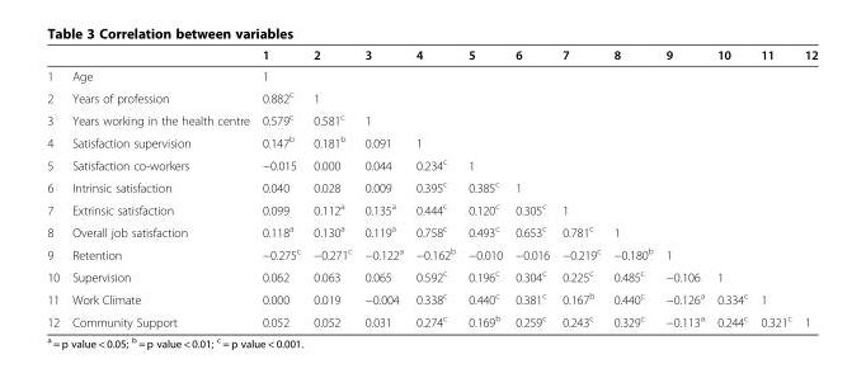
<table><thead><tr><td></td><td></td><td>1</td><td>2</td><td>3</td><td>4</td><td>5</td><td>6</td><td>7</td><td>8</td><td>9</td><td>10</td><td>11</td><td>12</td></tr></thead><tbody><tr><td>1</td><td>Age</td><td>1</td><td></td><td></td><td></td><td></td><td></td><td></td><td></td><td></td><td></td><td></td><td></td></tr><tr><td>2</td><td>Years of profession</td><td>0.882<sup>c</sup></td><td>1</td><td></td><td></td><td></td><td></td><td></td><td></td><td></td><td></td><td></td><td></td></tr><tr><td>3</td><td>Years working in the health centre</td><td>0.579<sup>c</sup></td><td>0.581<sup>c</sup></td><td>1</td><td></td><td></td><td></td><td></td><td></td><td></td><td></td><td></td><td></td></tr><tr><td>4</td><td>Satisfaction supervision</td><td>0.147<sup>b</sup></td><td>0.181<sup>b</sup></td><td>0.091</td><td>1</td><td></td><td></td><td></td><td></td><td></td><td></td><td></td><td></td></tr><tr><td>5</td><td>Satisfaction co-workers</td><td>−0.015</td><td>0.000</td><td>0.044</td><td>0.234<sup>c</sup></td><td>1</td><td></td><td></td><td></td><td></td><td></td><td></td><td></td></tr><tr><td>6</td><td>Intrinsic satisfaction</td><td>0.040</td><td>0.028</td><td>0.009</td><td>0.395<sup>c</sup></td><td>0.385<sup>c</sup></td><td>1</td><td></td><td></td><td></td><td></td><td></td><td></td></tr><tr><td>7</td><td>Extrinsic satisfaction</td><td>0.099</td><td>0.112<sup>a</sup></td><td>0.135<sup>a</sup></td><td>0.444<sup>c</sup></td><td>0.120<sup>c</sup></td><td>0.305<sup>c</sup></td><td>1</td><td></td><td></td><td></td><td></td><td></td></tr><tr><td>8</td><td>Overall job satisfaction</td><td>0.118<sup>a</sup></td><td>0.130<sup>a</sup></td><td>0.119<sup>a</sup></td><td>0.758<sup>c</sup></td><td>0.493<sup>c</sup></td><td>0.653<sup>c</sup></td><td>0.781<sup>c</sup></td><td>1</td><td></td><td></td><td></td><td></td></tr><tr><td>9</td><td>Retention</td><td>−0.275<sup>c</sup></td><td>−0.271<sup>c</sup></td><td>−0.122<sup>a</sup></td><td>−0.162<sup>b</sup></td><td>−0.010</td><td>−0.016</td><td>−0.219<sup>c</sup></td><td>−0.180<sup>b</sup></td><td>1</td><td></td><td></td><td></td></tr><tr><td>10</td><td>Supervision</td><td>0.062</td><td>0.063</td><td>0.065</td><td>0.592<sup>c</sup></td><td>0.196<sup>c</sup></td><td>0.304<sup>c</sup></td><td>0.225<sup>c</sup></td><td>0.485<sup>c</sup></td><td>−0.106</td><td>1</td><td></td><td></td></tr><tr><td>11</td><td>Work Climate</td><td>0.000</td><td>0.019</td><td>−0.004</td><td>0.338<sup>c</sup></td><td>0.440<sup>c</sup></td><td>0.381<sup>c</sup></td><td>0.167<sup>b</sup></td><td>0.440<sup>c</sup></td><td>−0.126<sup>a</sup></td><td>0.334<sup>c</sup></td><td>1</td><td></td></tr><tr><td>12</td><td>Community Support</td><td>0.052</td><td>0.052</td><td>0.031</td><td>0.274<sup>c</sup></td><td>0.169<sup>b</sup></td><td>0.259<sup>c</sup></td><td>0.243<sup>c</sup></td><td>0.329<sup>c</sup></td><td>−0.113<sup>a</sup></td><td>0.244<sup>c</sup></td><td>0.321<sup>c</sup></td><td>1</td></tr></tbody></table>